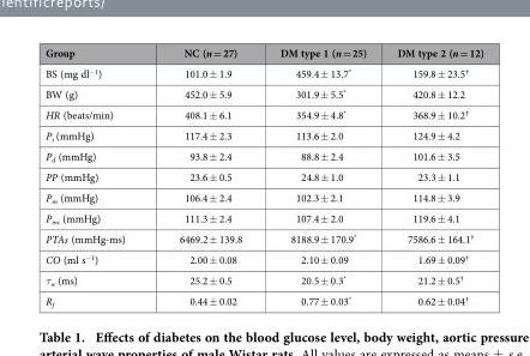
<table><thead><tr><td>Group</td><td>NC (n = 27)</td><td>DM type 1 (n = 25)</td><td>DM type 2 (n = 12)</td></tr></thead><tbody><tr><td>BS (mg dl<sup>−1</sup>)</td><td>101.0 ± 1.9</td><td>459.4 ± 13.7*</td><td>159.8 ± 23.5†</td></tr><tr><td>BW (g)</td><td>452.0 ± 5.9</td><td>301.9 ± 5.5*</td><td>420.8 ± 12.2</td></tr><tr><td>HR (beats/min)</td><td>408.1 ± 6.1</td><td>354.9 ± 4.8*</td><td>368.9 ± 10.2†</td></tr><tr><td>P<sub>s</sub> (mmHg)</td><td>117.4 ± 2.3</td><td>113.6 ± 2.0</td><td>124.9 ± 4.2</td></tr><tr><td>P<sub>d</sub> (mmHg)</td><td>93.8 ± 2.4</td><td>88.8 ± 2.4</td><td>101.6 ± 3.5</td></tr><tr><td>PP (mmHg)</td><td>23.6 ± 0.5</td><td>24.8 ± 1.0</td><td>23.3 ± 1.1</td></tr><tr><td>P<sub>m</sub> (mmHg)</td><td>106.4 ± 2.4</td><td>102.3 ± 2.1</td><td>114.8 ± 3.9</td></tr><tr><td>P<sub>ms</sub> (mmHg)</td><td>111.3 ± 2.4</td><td>107.4 ± 2.0</td><td>119.6 ± 4.1</td></tr><tr><td>PTAs (mmHg-ms)</td><td>6469.2 ± 139.8</td><td>8188.9 ± 170.9*</td><td>7586.6 ± 164.1†</td></tr><tr><td>CO (ml s<sup>−1</sup>)</td><td>2.00 ± 0.08</td><td>2.10 ± 0.09</td><td>1.69 ± 0.09†</td></tr><tr><td>τ<sub>w</sub> (ms)</td><td>25.2 ± 0.5</td><td>20.5 ± 0.3*</td><td>21.2 ± 0.5†</td></tr><tr><td>R<sub>f</sub></td><td>0.44 ± 0.02</td><td>0.77 ± 0.03*</td><td>0.62 ± 0.04†</td></tr></tbody></table>